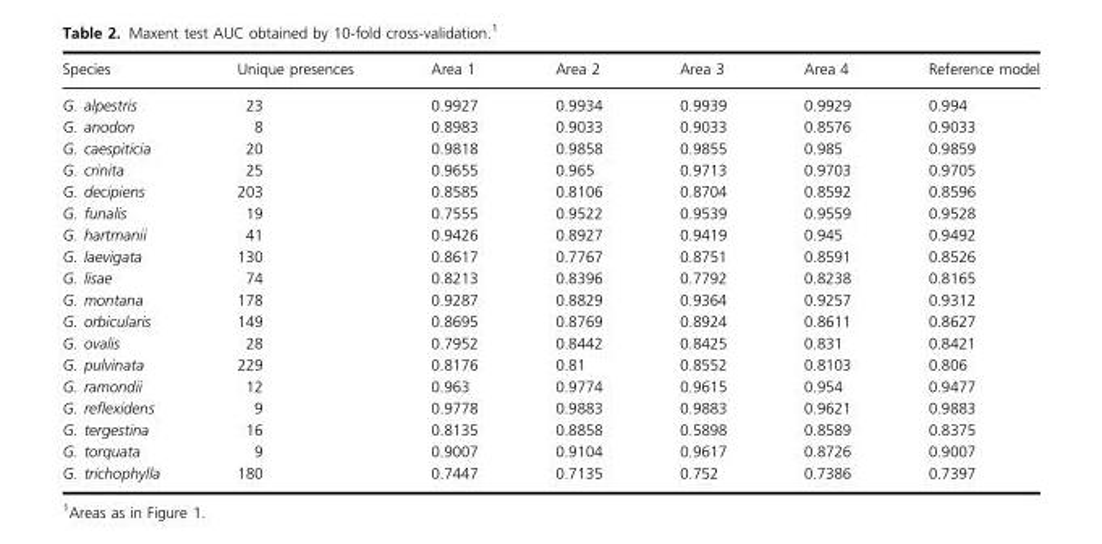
<table><thead><tr><td>Species</td><td>Unique presences</td><td>Area 1</td><td>Area 2</td><td>Area 3</td><td>Area 4</td><td>Reference model</td></tr></thead><tbody><tr><td>G. alpestris</td><td>23</td><td>0.9927</td><td>0.9934</td><td>0.9939</td><td>0.9929</td><td>0.994</td></tr><tr><td>G. anodon</td><td>8</td><td>0.8983</td><td>0.9033</td><td>0.9033</td><td>0.8576</td><td>0.9033</td></tr><tr><td>G. caespiticia</td><td>20</td><td>0.9818</td><td>0.9858</td><td>0.9855</td><td>0.985</td><td>0.9859</td></tr><tr><td>G. crinita</td><td>25</td><td>0.9655</td><td>0.965</td><td>0.9713</td><td>0.9703</td><td>0.9705</td></tr><tr><td>G. decipiens</td><td>203</td><td>0.8585</td><td>0.8106</td><td>0.8704</td><td>0.8592</td><td>0.8596</td></tr><tr><td>G. funalis</td><td>19</td><td>0.7555</td><td>0.9522</td><td>0.9539</td><td>0.9559</td><td>0.9528</td></tr><tr><td>G. hartmanii</td><td>41</td><td>0.9426</td><td>0.8927</td><td>0.9419</td><td>0.945</td><td>0.9492</td></tr><tr><td>G. laevigata</td><td>130</td><td>0.8617</td><td>0.7767</td><td>0.8751</td><td>0.8591</td><td>0.8526</td></tr><tr><td>G. lisae</td><td>74</td><td>0.8213</td><td>0.8396</td><td>0.7792</td><td>0.8238</td><td>0.8165</td></tr><tr><td>G. montana</td><td>178</td><td>0.9287</td><td>0.8829</td><td>0.9364</td><td>0.9257</td><td>0.9312</td></tr><tr><td>G. orbicularis</td><td>149</td><td>0.8695</td><td>0.8769</td><td>0.8924</td><td>0.8611</td><td>0.8627</td></tr><tr><td>G. ovalis</td><td>28</td><td>0.7952</td><td>0.8442</td><td>0.8425</td><td>0.831</td><td>0.8421</td></tr><tr><td>G. pulvinata</td><td>229</td><td>0.8176</td><td>0.81</td><td>0.8552</td><td>0.8103</td><td>0.806</td></tr><tr><td>G. ramondii</td><td>12</td><td>0.963</td><td>0.9774</td><td>0.9615</td><td>0.954</td><td>0.9477</td></tr><tr><td>G. reflexidens</td><td>9</td><td>0.9778</td><td>0.9883</td><td>0.9883</td><td>0.9621</td><td>0.9883</td></tr><tr><td>G. tergestina</td><td>16</td><td>0.8135</td><td>0.8858</td><td>0.5898</td><td>0.8589</td><td>0.8375</td></tr><tr><td>G. torquata</td><td>9</td><td>0.9007</td><td>0.9104</td><td>0.9617</td><td>0.8726</td><td>0.9007</td></tr><tr><td>G. trichophylla</td><td>180</td><td>0.7447</td><td>0.7135</td><td>0.752</td><td>0.7386</td><td>0.7397</td></tr></tbody></table>